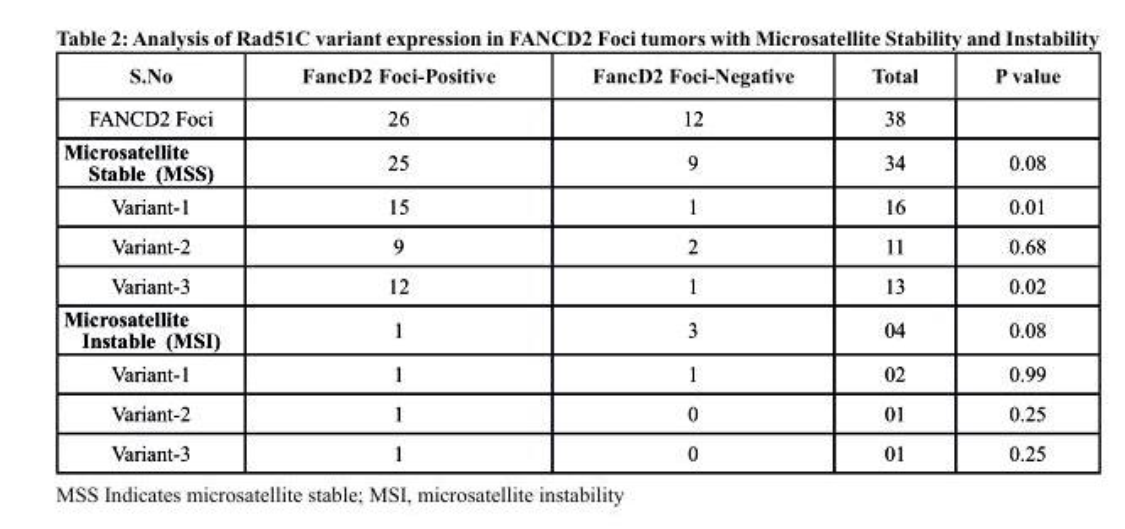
<table><thead><tr><td>S.No</td><td>Fancd2 Foci-Positive</td><td>Fancd2 Foci-negative</td><td>total</td><td>P value</td></tr></thead><tbody><tr><td>FANCD2 Foci</td><td>26</td><td>12</td><td>38</td><td></td></tr><tr><td>Microsatellite Stable (MSS)</td><td>25</td><td>9</td><td>34</td><td>0.08</td></tr><tr><td>Variant-1</td><td>15</td><td>1</td><td>16</td><td>0.01</td></tr><tr><td>Variant-2</td><td>9</td><td>2</td><td>11</td><td>0.68</td></tr><tr><td>Variant-3</td><td>12</td><td>1</td><td>13</td><td>0.02</td></tr><tr><td>Microsatellite Instable (MSI)</td><td>1</td><td>3</td><td>04</td><td>0.08</td></tr><tr><td>Variant-1</td><td>1</td><td>1</td><td>02</td><td>0.99</td></tr><tr><td>Variant-2</td><td>1</td><td>0</td><td>01</td><td>0.25</td></tr><tr><td>Variant-3</td><td>1</td><td>0</td><td>01</td><td>0.25</td></tr></tbody></table>